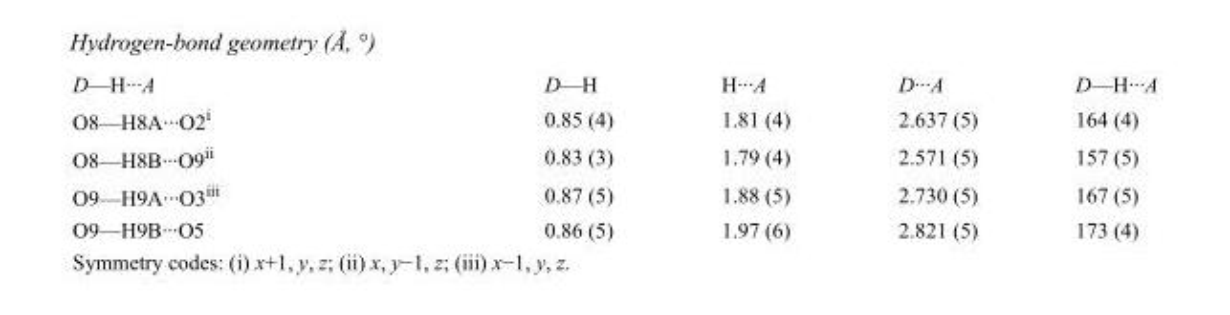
<table><tbody><tr><td>D—H···A</td><td>D—H</td><td>H···A</td><td>D···A</td><td>D—H···A</td></tr><tr><td>O8—H8A···O2<sup>i</sup></td><td>0.85 (4)</td><td>1.81 (4)</td><td>2.637 (5)</td><td>164 (4)</td></tr><tr><td>O8—H8B···O9<sup>ii</sup></td><td>0.83 (3)</td><td>1.79 (4)</td><td>2.571 (5)</td><td>157 (5)</td></tr><tr><td>O9—H9A···O3<sup>iii</sup></td><td>0.87 (5)</td><td>1.88 (5)</td><td>2.730 (5)</td><td>167 (5)</td></tr><tr><td>O9—H9B···O5</td><td>0.86 (5)</td><td>1.97 (6)</td><td>2.821 (5)</td><td>173 (4)</td></tr></tbody></table>